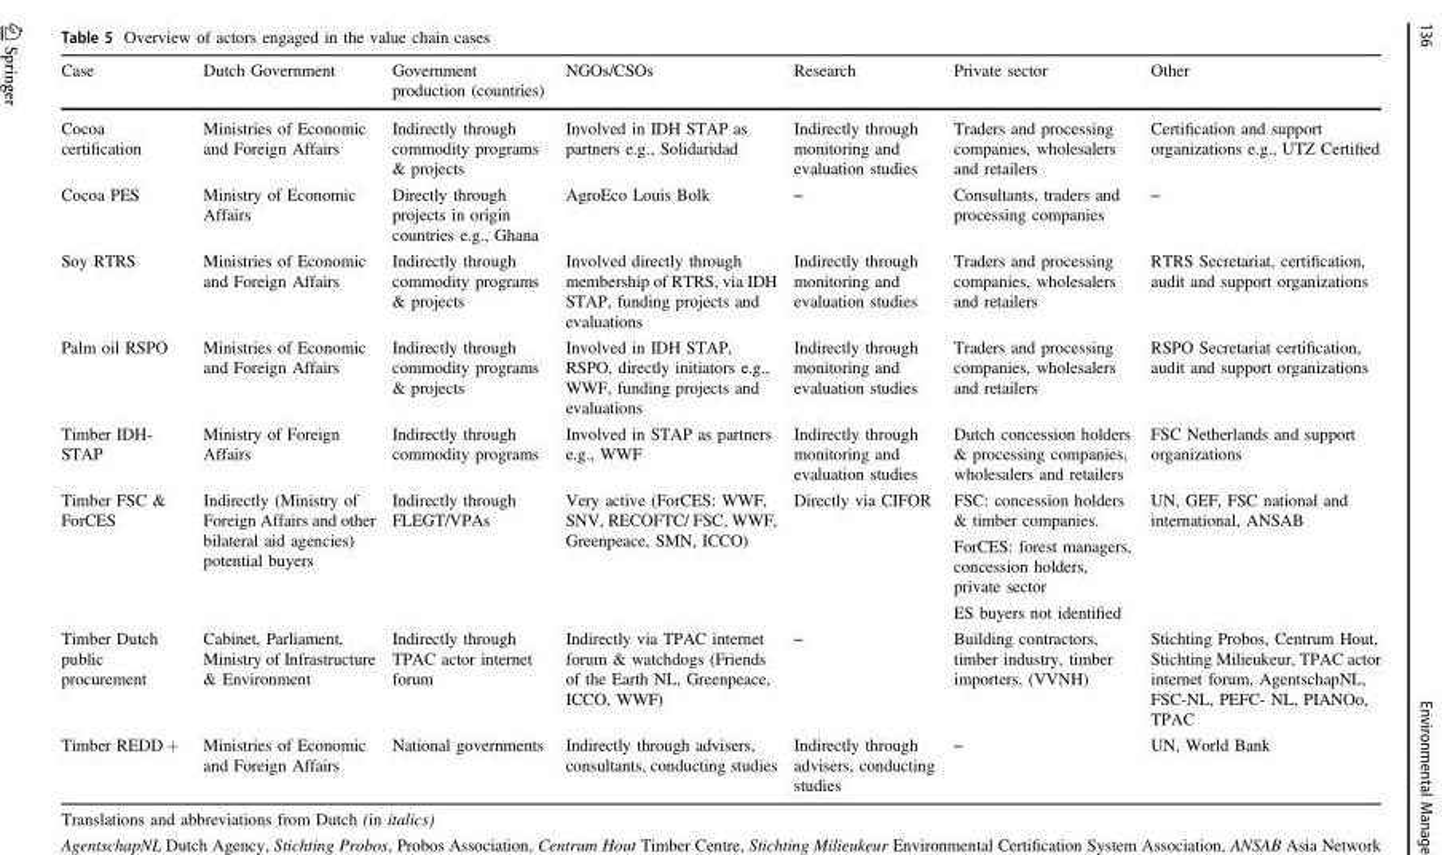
<table><thead><tr><td>Case</td><td>Dutch Government</td><td>Government production (countries)</td><td>NGOs/CSOs</td><td>Research</td><td>Private sector</td><td>Other</td></tr></thead><tbody><tr><td>Cocoa certification</td><td>Ministries of Economic and Foreign Affairs</td><td>Indirectly through commodity programs &amp; projects</td><td>Involved in IDH STAP as partners e.g., Solidaridad</td><td>Indirectly through monitoring and evaluation studies</td><td>Traders and processing companies, wholesalers and retailers</td><td>Certification and support organizations e.g., UTZ Certified</td></tr><tr><td>Cocoa PES</td><td>Ministry of Economic Affairs</td><td>Directly through projects in origin countries e.g., Ghana</td><td>AgroEco Louis Bolk</td><td>–</td><td>Consultants, traders and processing companies</td><td>–</td></tr><tr><td>Soy RTRS</td><td>Ministries of Economic and Foreign Affairs</td><td>Indirectly through commodity programs &amp; projects</td><td>Involved directly through membership of RTRS, via IDH STAP, funding projects and evaluations</td><td>Indirectly through monitoring and evaluation studies</td><td>Traders and processing companies, wholesalers and retailers</td><td>RTRS Secretariat, certification, audit and support organizations</td></tr><tr><td>Palm oil RSPO</td><td>Ministries of Economic and Foreign Affairs</td><td>Indirectly through commodity programs &amp; projects</td><td>Involved in IDH STAP, RSPO, directly initiators e.g., WWF, funding projects and evaluations</td><td>Indirectly through monitoring and evaluation studies</td><td>Traders and processing companies, wholesalers and retailers</td><td>RSPO Secretariat certification, audit and support organizations</td></tr><tr><td>Timber IDH- STAP</td><td>Ministry of Foreign Affairs</td><td>Indirectly through commodity programs</td><td>Involved in STAP as partners e.g., WWF</td><td>Indirectly through monitoring and evaluation studies</td><td>Dutch concession holders &amp; processing companies, wholesalers and retailers</td><td>FSC Netherlands and support organizations</td></tr><tr><td rowspan="3">Timber FSC &amp; ForCES</td><td rowspan="3">Indirectly (Ministry of Foreign Affairs and other bilateral aid agencies) potential buyers</td><td rowspan="3">Indirectly through FLEGT/VPAs</td><td rowspan="3">Very active (ForCES: WWF, SNV, RECOFTC/ FSC, WWF, Greenpeace, SMN, ICCO)</td><td rowspan="3">Directly via CIFOR</td><td>FSC: concession holders &amp; timber companies.</td><td rowspan="3">UN, GEF, FSC national and international, ANSAB</td></tr><tr><td>ForCES: forest managers, concession holders, private sector</td></tr><tr><td>ES buyers not identified</td></tr><tr><td>Timber Dutch public procurement</td><td>Cabinet, Parliament, Ministry of Infrastructure &amp; Environment</td><td>Indirectly through TPAC actor internet forum</td><td>Indirectly via TPAC internet forum &amp; watchdogs (Friends of the Earth NL, Greenpeace, ICCO, WWF)</td><td>–</td><td>Building contractors, timber industry, timber importers, (VVNH)</td><td>Stichting Probos, Centrum Hout, Stichting Milieukeur, TPAC actor internet forum, AgentschapNL, FSC-NL, PEFC- NL, PIANOo, TPAC</td></tr><tr><td>Timber REDD +</td><td>Ministries of Economic and Foreign Affairs</td><td>National governments</td><td>Indirectly through advisers, consultants, conducting studies</td><td>Indirectly through advisers, conducting studies</td><td>–</td><td>UN, World Bank</td></tr></tbody></table>